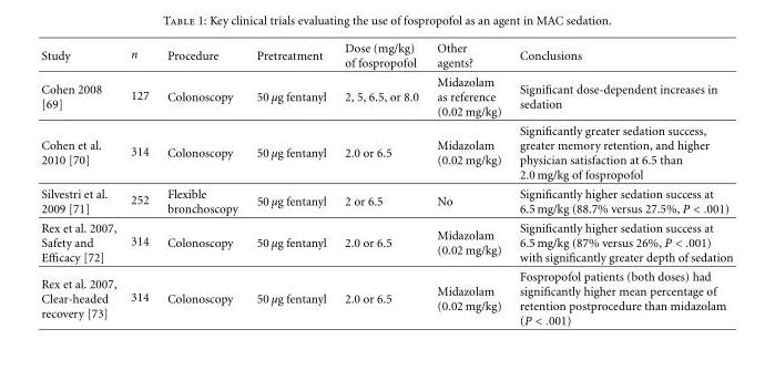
<table><thead><tr><td>Study</td><td>n</td><td>Procedure</td><td>Pretreatment</td><td>Dose (mg/kg) of fospropofol</td><td>Other agents?</td><td>Conclusions</td></tr></thead><tbody><tr><td>Cohen 2008 [69]</td><td>127</td><td>Colonoscopy</td><td>50 μg fentanyl</td><td>2, 5, 6.5, or 8.0</td><td>Midazolam as reference (0.02 mg/kg)</td><td>Significant dose-dependent increases in sedation</td></tr><tr><td>Cohen et al. 2010 [70]</td><td>314</td><td>Colonoscopy</td><td>50 μg fentanyl</td><td>2.0 or 6.5</td><td>Midazolam (0.02 mg/kg)</td><td>Significantly greater sedation success, greater memory retention, and higher physician satisfaction at 6.5 than 2.0 mg/kg of fospropofol</td></tr><tr><td>Silvestri et al. 2009 [71]</td><td>252</td><td>Flexible bronchoscopy</td><td>50 μg fentanyl</td><td>2 or 6.5</td><td>No</td><td>Significantly higher sedation success at 6.5 mg/kg (88.7% versus 27.5%, P &lt; .001)</td></tr><tr><td>Rex et al. 2007, Safety and Efficacy [72]</td><td>314</td><td>Colonoscopy</td><td>50 μg fentanyl</td><td>2.0 or 6.5</td><td>Midazolam (0.02 mg/kg)</td><td>Significantly higher sedation success at 6.5 mg/kg (87% versus 26%, P &lt; .001) with significantly greater depth of sedation</td></tr><tr><td>Rex et al. 2007, Clear-headed recovery [73]</td><td>314</td><td>Colonoscopy</td><td>50 μg fentanyl</td><td>2.0 or 6.5</td><td>Midazolam (0.02 mg/kg)</td><td>Fospropofol patients (both doses) had significantly higher mean percentage of retention postprocedure than midazolam (P &lt; .001)</td></tr></tbody></table>